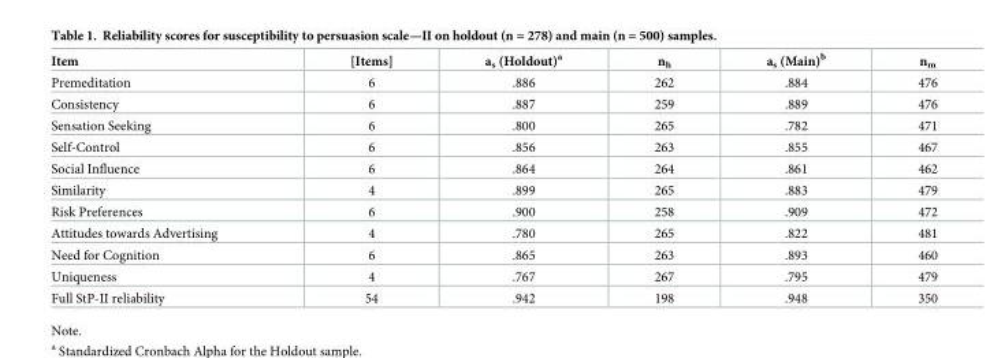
<table><thead><tr><td>Item</td><td>[Items]</td><td>a<sub>s</sub> (Holdout)<sup>a</sup></td><td>n<sub>h</sub></td><td>a<sub>s</sub> (Main)<sup>b</sup></td><td>n<sub>m</sub></td></tr></thead><tbody><tr><td>Premeditation</td><td>6</td><td>.886</td><td>262</td><td>.884</td><td>476</td></tr><tr><td>Consistency</td><td>6</td><td>.887</td><td>259</td><td>.889</td><td>476</td></tr><tr><td>Sensation Seeking</td><td>6</td><td>.800</td><td>265</td><td>.782</td><td>471</td></tr><tr><td>Self-Control</td><td>6</td><td>.856</td><td>263</td><td>.855</td><td>467</td></tr><tr><td>Social Influence</td><td>6</td><td>.864</td><td>264</td><td>.861</td><td>462</td></tr><tr><td>Similarity</td><td>4</td><td>.899</td><td>265</td><td>.883</td><td>479</td></tr><tr><td>Risk Preferences</td><td>6</td><td>.900</td><td>258</td><td>.909</td><td>472</td></tr><tr><td>Attitudes towards Advertising</td><td>4</td><td>.780</td><td>265</td><td>.822</td><td>481</td></tr><tr><td>Need for Cognition</td><td>6</td><td>.865</td><td>263</td><td>.893</td><td>460</td></tr><tr><td>Uniqueness</td><td>4</td><td>.767</td><td>267</td><td>.795</td><td>479</td></tr><tr><td>Full StP-II reliability</td><td>54</td><td>.942</td><td>198</td><td>.948</td><td>350</td></tr></tbody></table>